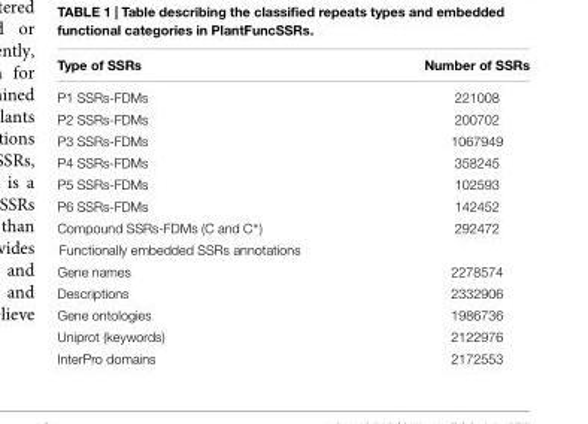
<table><thead><tr><td>Type of SSRs</td><td>Number of SSRs</td></tr></thead><tbody><tr><td>P1 SSRs-FDMs</td><td>221008</td></tr><tr><td>P2 SSRs-FDMs</td><td>200702</td></tr><tr><td>P3 SSRs-FDMs</td><td>1067949</td></tr><tr><td>P4 SSRs-FDMs</td><td>358245</td></tr><tr><td>P5 SSRs-FDMs</td><td>102593</td></tr><tr><td>P6 SSRs-FDMs</td><td>142452</td></tr><tr><td>Compound SSRs-FDMs (C and C∗)</td><td>292472</td></tr><tr><td colspan="2">Functionally embedded SSRs annotations</td></tr><tr><td>Gene names</td><td>2278574</td></tr><tr><td>Descriptions</td><td>2332906</td></tr><tr><td>Gene ontologies</td><td>1986736</td></tr><tr><td>Uniprot (keywords)</td><td>2122976</td></tr><tr><td>InterPro domains</td><td>2172553</td></tr></tbody></table>